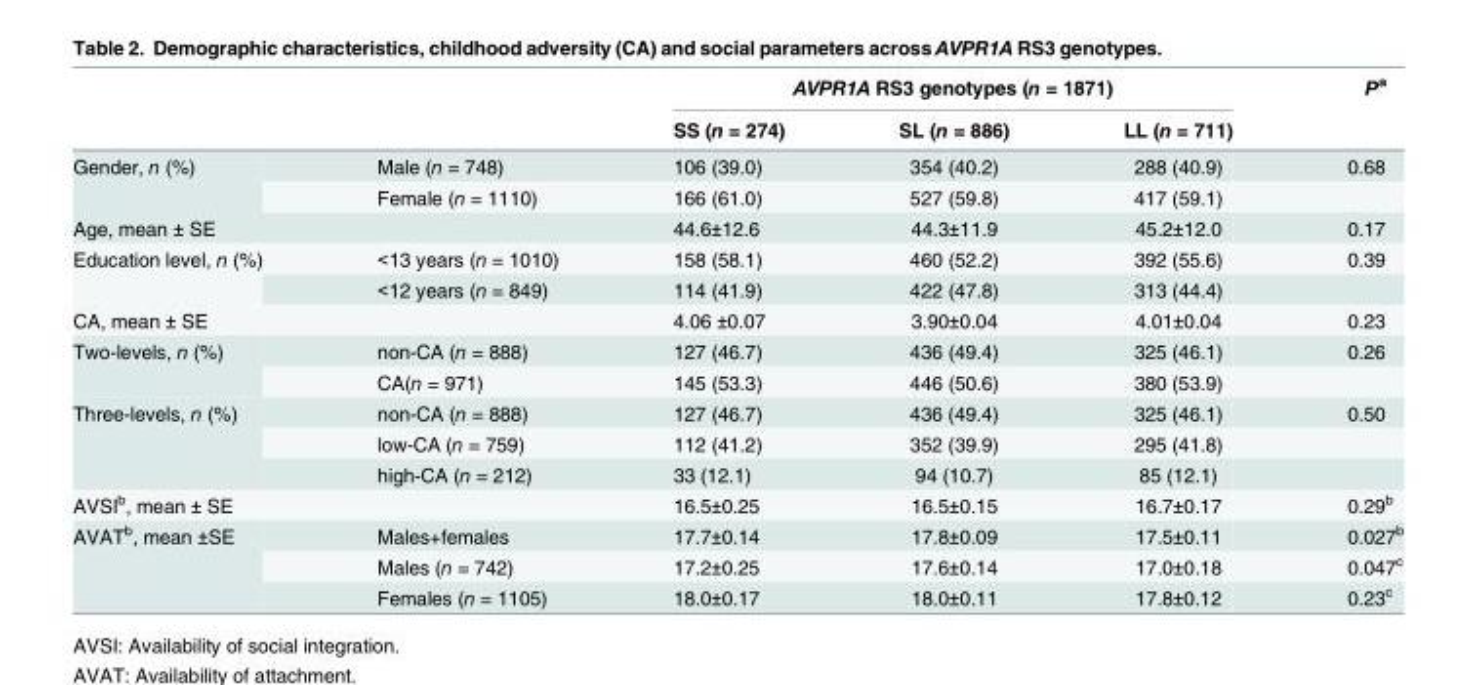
<table><thead><tr><td rowspan="2"></td><td rowspan="2"></td><td colspan="3">AVPR1A RS3 genotypes (n = 1871)</td><td rowspan="2">P<sup>a</sup></td></tr><tr><td>SS (n = 274)</td><td>SL (n = 886)</td><td>LL (n = 711)</td></tr></thead><tbody><tr><td rowspan="2">Gender, n (%)</td><td>Male (n = 748)</td><td>106 (39.0)</td><td>354 (40.2)</td><td>288 (40.9)</td><td>0.68</td></tr><tr><td>Female (n = 1110)</td><td>166 (61.0)</td><td>527 (59.8)</td><td>417 (59.1)</td><td></td></tr><tr><td>Age, mean ± SE</td><td></td><td>44.6±12.6</td><td>44.3±11.9</td><td>45.2±12.0</td><td>0.17</td></tr><tr><td rowspan="2">Education level, n (%)</td><td>&lt;13 years (n = 1010)</td><td>158 (58.1)</td><td>460 (52.2)</td><td>392 (55.6)</td><td>0.39</td></tr><tr><td>&lt;12 years (n = 849)</td><td>114 (41.9)</td><td>422 (47.8)</td><td>313 (44.4)</td><td></td></tr><tr><td>CA, mean ± SE</td><td></td><td>4.06 ±0.07</td><td>3.90±0.04</td><td>4.01±0.04</td><td>0.23</td></tr><tr><td rowspan="2">Two-levels, n (%)</td><td>non-CA (n = 888)</td><td>127 (46.7)</td><td>436 (49.4)</td><td>325 (46.1)</td><td>0.26</td></tr><tr><td>CA(n = 971)</td><td>145 (53.3)</td><td>446 (50.6)</td><td>380 (53.9)</td><td></td></tr><tr><td rowspan="3">Three-levels, n (%)</td><td>non-CA (n = 888)</td><td>127 (46.7)</td><td>436 (49.4)</td><td>325 (46.1)</td><td>0.50</td></tr><tr><td>low-CA (n = 759)</td><td>112 (41.2)</td><td>352 (39.9)</td><td>295 (41.8)</td><td></td></tr><tr><td>high-CA (n = 212)</td><td>33 (12.1)</td><td>94 (10.7)</td><td>85 (12.1)</td><td></td></tr><tr><td>AVSI<sup>b</sup>, mean ± SE</td><td></td><td>16.5±0.25</td><td>16.5±0.15</td><td>16.7±0.17</td><td>0.29<sup>b</sup></td></tr><tr><td rowspan="3">AVAT<sup>b</sup>, mean ±SE</td><td>Males+females</td><td>17.7±0.14</td><td>17.8±0.09</td><td>17.5±0.11</td><td>0.027<sup>b</sup></td></tr><tr><td>Males (n = 742)</td><td>17.2±0.25</td><td>17.6±0.14</td><td>17.0±0.18</td><td>0.047<sup>c</sup></td></tr><tr><td>Females (n = 1105)</td><td>18.0±0.17</td><td>18.0±0.11</td><td>17.8±0.12</td><td>0.23<sup>c</sup></td></tr></tbody></table>